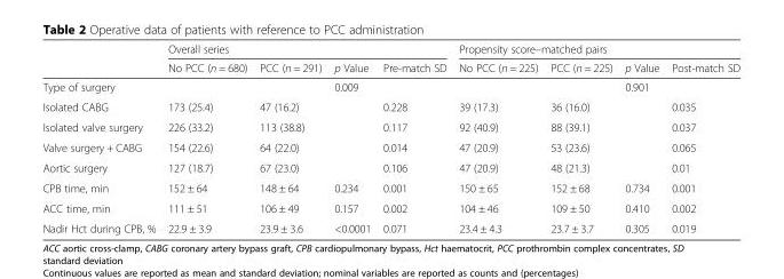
<table><thead><tr><td rowspan="2"></td><td colspan="4">Overall series</td><td colspan="4">Propensity score–matched pairs</td></tr><tr><td>No PCC (n = 680)</td><td>PCC (n = 291)</td><td>p Value</td><td>Pre-match SD</td><td>No PCC (n = 225)</td><td>PCC (n = 225)</td><td>p Value</td><td>Post-match SD</td></tr></thead><tbody><tr><td>Type of surgery</td><td></td><td></td><td>0.009</td><td></td><td></td><td></td><td>0.901</td><td></td></tr><tr><td>Isolated CABG</td><td>173 (25.4)</td><td>47 (16.2)</td><td></td><td>0.228</td><td>39 (17.3)</td><td>36 (16.0)</td><td></td><td>0.035</td></tr><tr><td>Isolated valve surgery</td><td>226 (33.2)</td><td>113 (38.8)</td><td></td><td>0.117</td><td>92 (40.9)</td><td>88 (39.1)</td><td></td><td>0.037</td></tr><tr><td>Valve surgery + CABG</td><td>154 (22.6)</td><td>64 (22.0)</td><td></td><td>0.014</td><td>47 (20.9)</td><td>53 (23.6)</td><td></td><td>0.065</td></tr><tr><td>Aortic surgery</td><td>127 (18.7)</td><td>67 (23.0)</td><td></td><td>0.106</td><td>47 (20.9)</td><td>48 (21.3)</td><td></td><td>0.01</td></tr><tr><td>CPB time, min</td><td>152 ± 64</td><td>148 ± 64</td><td>0.234</td><td>0.001</td><td>150 ± 65</td><td>152 ± 68</td><td>0.734</td><td>0.001</td></tr><tr><td>ACC time, min</td><td>111 ± 51</td><td>106 ± 49</td><td>0.157</td><td>0.002</td><td>104 ± 46</td><td>109 ± 50</td><td>0.410</td><td>0.002</td></tr><tr><td>Nadir Hct during CPB, %</td><td>22.9 ± 3.9</td><td>23.9 ± 3.6</td><td>&lt;0.0001</td><td>0.071</td><td>23.4 ± 4.3</td><td>23.7 ± 3.7</td><td>0.305</td><td>0.019</td></tr></tbody></table>